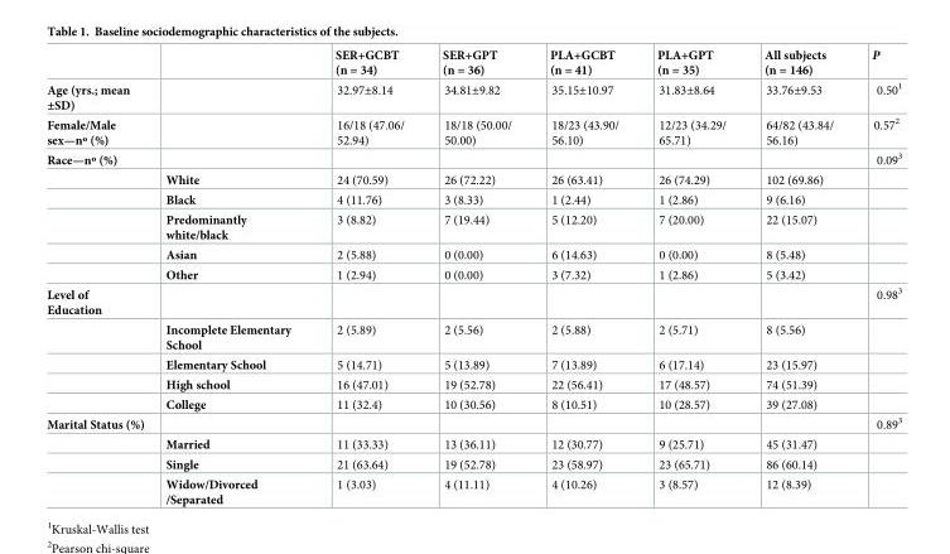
<table><thead><tr><td></td><td></td><td>SER+GCBT (n = 34)</td><td>SER+GPT (n = 36)</td><td>PLA+GCBT (n = 41)</td><td>PLA+GPT (n = 35)</td><td>All subjects (n = 146)</td><td>P</td></tr></thead><tbody><tr><td>Age (yrs.; mean ±SD)</td><td></td><td>32.97±8.14</td><td>34.81±9.82</td><td>35.15±10.97</td><td>31.83±8.64</td><td>33.76±9.53</td><td>0.50<sup>1</sup></td></tr><tr><td>Female/Male sex—nº (%)</td><td></td><td>16/18 (47.06/ 52.94)</td><td>18/18 (50.00/ 50.00)</td><td>18/23 (43.90/ 56.10)</td><td>12/23 (34.29/ 65.71)</td><td>64/82 (43.84/ 56.16)</td><td>0.57<sup>2</sup></td></tr><tr><td rowspan="6">Race—nº (%)</td><td></td><td></td><td></td><td></td><td></td><td></td><td>0.09<sup>3</sup></td></tr><tr><td>White</td><td>24 (70.59)</td><td>26 (72.22)</td><td>26 (63.41)</td><td>26 (74.29)</td><td>102 (69.86)</td><td></td></tr><tr><td>Black</td><td>4 (11.76)</td><td>3 (8.33)</td><td>1 (2.44)</td><td>1 (2.86)</td><td>9 (6.16)</td><td></td></tr><tr><td>Predominantly white/black</td><td>3 (8.82)</td><td>7 (19.44)</td><td>5 (12.20)</td><td>7 (20.00)</td><td>22 (15.07)</td><td></td></tr><tr><td>Asian</td><td>2 (5.88)</td><td>0 (0.00)</td><td>6 (14.63)</td><td>0 (0.00)</td><td>8 (5.48)</td><td></td></tr><tr><td>Other</td><td>1 (2.94)</td><td>0 (0.00)</td><td>3 (7.32)</td><td>1 (2.86)</td><td>5 (3.42)</td><td></td></tr><tr><td rowspan="5">Level of Education</td><td></td><td></td><td></td><td></td><td></td><td></td><td>0.98<sup>3</sup></td></tr><tr><td>Incomplete Elementary School</td><td>2 (5.89)</td><td>2 (5.56)</td><td>2 (5.88)</td><td>2 (5.71)</td><td>8 (5.56)</td><td></td></tr><tr><td>Elementary School</td><td>5 (14.71)</td><td>5 (13.89)</td><td>7 (13.89)</td><td>6 (17.14)</td><td>23 (15.97)</td><td></td></tr><tr><td>High school</td><td>16 (47.01)</td><td>19 (52.78)</td><td>22 (56.41)</td><td>17 (48.57)</td><td>74 (51.39)</td><td></td></tr><tr><td>College</td><td>11 (32.4)</td><td>10 (30.56)</td><td>8 (10.51)</td><td>10 (28.57)</td><td>39 (27.08)</td><td></td></tr><tr><td rowspan="4">Marital Status (%)</td><td></td><td></td><td></td><td></td><td></td><td></td><td>0.89<sup>3</sup></td></tr><tr><td>Married</td><td>11 (33.33)</td><td>13 (36.11)</td><td>12 (30.77)</td><td>9 (25.71)</td><td>45 (31.47)</td><td></td></tr><tr><td>Single</td><td>21 (63.64)</td><td>19 (52.78)</td><td>23 (58.97)</td><td>23 (65.71)</td><td>86 (60.14)</td><td></td></tr><tr><td>Widow/Divorced /Separated</td><td>1 (3.03)</td><td>4 (11.11)</td><td>4 (10.26)</td><td>3 (8.57)</td><td>12 (8.39)</td><td></td></tr></tbody></table>